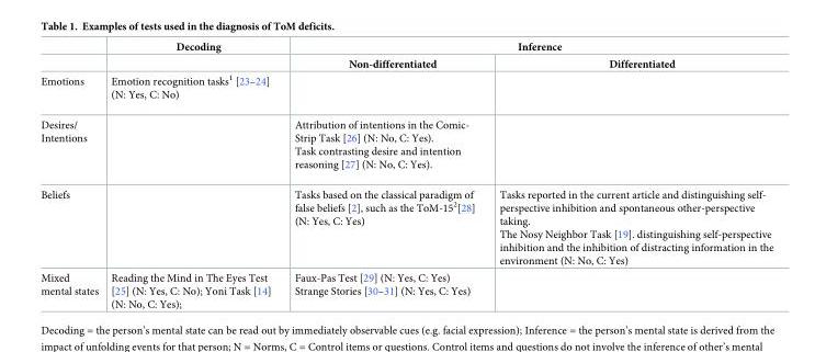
<table><thead><tr><td rowspan="2"></td><td rowspan="2">Decoding</td><td colspan="2">Inference</td></tr><tr><td>Non-differentiated</td><td>Differentiated</td></tr></thead><tbody><tr><td>Emotions</td><td>Emotion recognition tasks<sup>1</sup> [23–24] (N: Yes, C: No)</td><td></td><td></td></tr><tr><td>Desires/ Intentions</td><td></td><td>Attribution of intentions in the Comic- Strip Task [26] (N: No, C: Yes). Task contrasting desire and intention reasoning [27] (N: No, C: Yes).</td><td></td></tr><tr><td>Beliefs</td><td></td><td>Tasks based on the classical paradigm of false beliefs [2], such as the ToM-15<sup>2</sup>[28] (N: Yes, C: Yes)</td><td>Tasks reported in the current article and distinguishing self- perspective inhibition and spontaneous other-perspective taking. The Nosy Neighbor Task [19]. distinguishing self-perspective inhibition and the inhibition of distracting information in the environment (N: No, C: Yes)</td></tr><tr><td>Mixed mental states</td><td>Reading the Mind in The Eyes Test [25] (N: Yes, C: No); Yoni Task [14] (N: No, C: Yes);</td><td>Faux-Pas Test [29] (N: Yes, C: Yes) Strange Stories [30–31] (N: Yes, C: Yes)</td><td></td></tr></tbody></table>